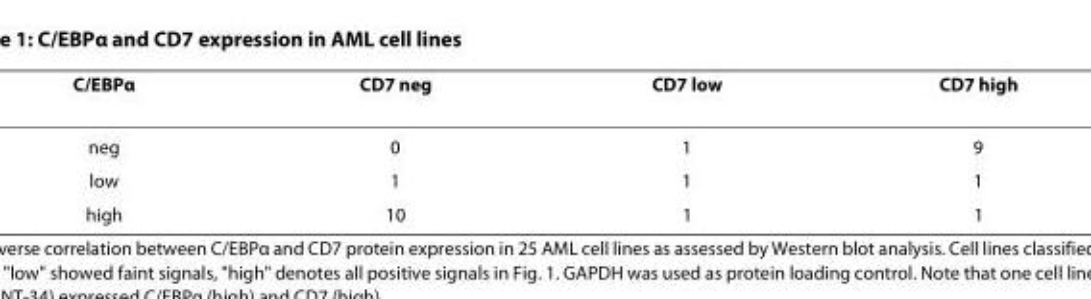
<table><thead><tr><td>C/EBPα</td><td>CD7 neg</td><td>CD7 low</td><td>CD7 high</td></tr></thead><tbody><tr><td>neg</td><td>0</td><td>1</td><td>9</td></tr><tr><td>low</td><td>1</td><td>1</td><td>1</td></tr><tr><td>high</td><td>10</td><td>1</td><td>1</td></tr></tbody></table>